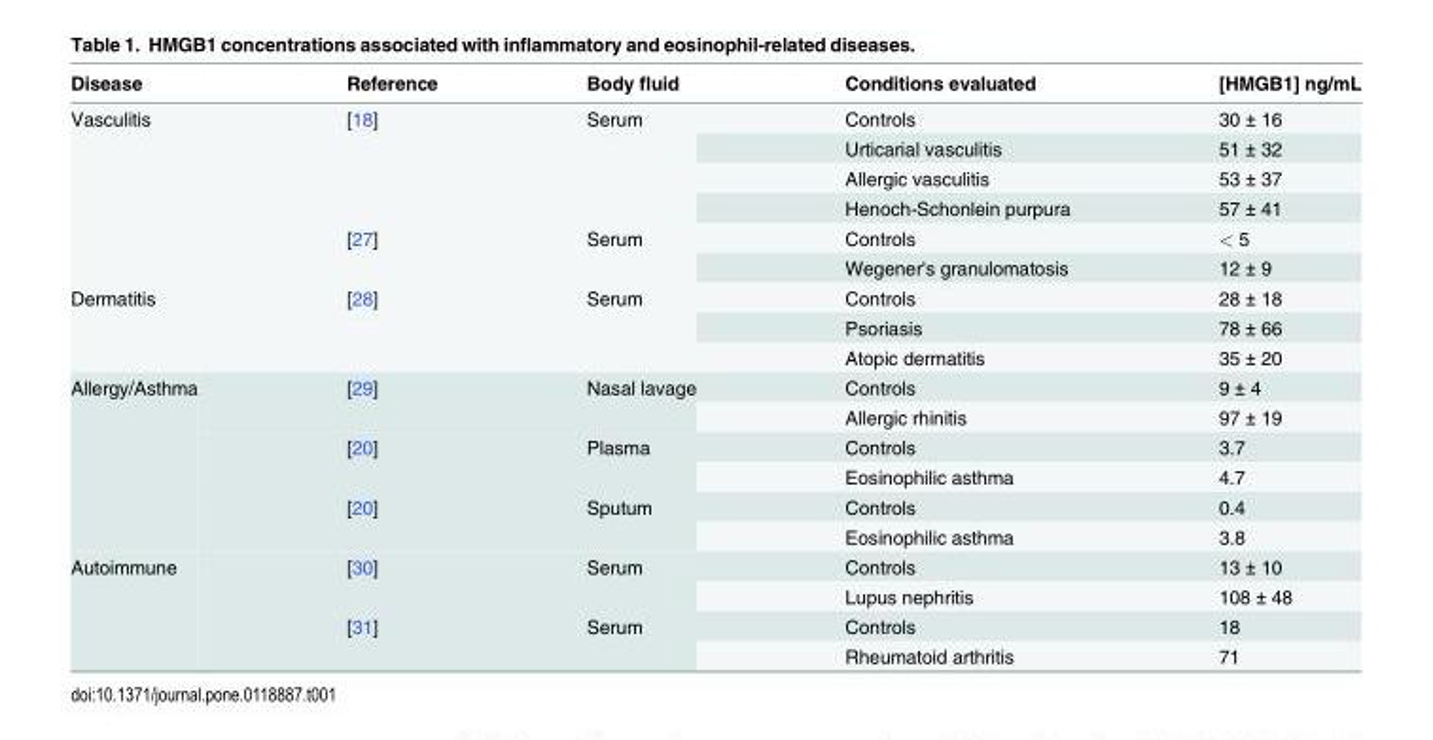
<table><thead><tr><td>Disease</td><td>Reference</td><td>Body fluid</td><td>Conditions evaluated</td><td>[HMGB1] ng/mL</td></tr></thead><tbody><tr><td rowspan="6">Vasculitis</td><td rowspan="4">[18]</td><td rowspan="4">Serum</td><td>Controls</td><td>30 ± 16</td></tr><tr><td>Urticarial vasculitis</td><td>51 ± 32</td></tr><tr><td>Allergic vasculitis</td><td>53 ± 37</td></tr><tr><td>Henoch-Schonlein purpura</td><td>57 ± 41</td></tr><tr><td rowspan="2">[27]</td><td rowspan="2">Serum</td><td>Controls</td><td>&lt; 5</td></tr><tr><td>Wegener&#x27;s granulomatosis</td><td>12 ± 9</td></tr><tr><td rowspan="3">Dermatitis</td><td rowspan="3">[28]</td><td rowspan="3">Serum</td><td>Controls</td><td>28 ± 18</td></tr><tr><td>Psoriasis</td><td>78 ± 66</td></tr><tr><td>Atopic dermatitis</td><td>35 ± 20</td></tr><tr><td rowspan="6">Allergy/Asthma</td><td rowspan="2">[29]</td><td rowspan="2">Nasal lavage</td><td>Controls</td><td>9 ± 4</td></tr><tr><td>Allergic rhinitis</td><td>97 ± 19</td></tr><tr><td rowspan="2">[20]</td><td rowspan="2">Plasma</td><td>Controls</td><td>3.7</td></tr><tr><td>Eosinophilic asthma</td><td>4.7</td></tr><tr><td rowspan="2">[20]</td><td rowspan="2">Sputum</td><td>Controls</td><td>0.4</td></tr><tr><td>Eosinophilic asthma</td><td>3.8</td></tr><tr><td rowspan="4">Autoimmune</td><td rowspan="2">[30]</td><td rowspan="2">Serum</td><td>Controls</td><td>13 ± 10</td></tr><tr><td>Lupus nephritis</td><td>108 ± 48</td></tr><tr><td rowspan="2">[31]</td><td rowspan="2">Serum</td><td>Controls</td><td>18</td></tr><tr><td>Rheumatoid arthritis</td><td>71</td></tr></tbody></table>